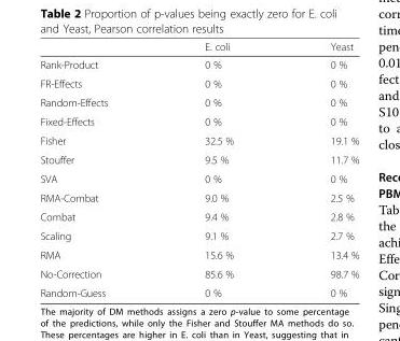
<table><thead><tr><td></td><td>E. coli</td><td>Yeast</td></tr></thead><tbody><tr><td>Rank-Product</td><td>0 %</td><td>0 %</td></tr><tr><td>FR-Effects</td><td>0 %</td><td>0 %</td></tr><tr><td>Random-Effects</td><td>0 %</td><td>0 %</td></tr><tr><td>Fixed-Effects</td><td>0 %</td><td>0 %</td></tr><tr><td>Fisher</td><td>32.5 %</td><td>19.1 %</td></tr><tr><td>Stouffer</td><td>9.5 %</td><td>11.7 %</td></tr><tr><td>SVA</td><td>0 %</td><td>0 %</td></tr><tr><td>RMA-Combat</td><td>9.0 %</td><td>2.5 %</td></tr><tr><td>Combat</td><td>9.4 %</td><td>2.8 %</td></tr><tr><td>Scaling</td><td>9.1 %</td><td>2.7 %</td></tr><tr><td>RMA</td><td>15.6 %</td><td>13.4 %</td></tr><tr><td>No-Correction</td><td>85.6 %</td><td>98.7 %</td></tr><tr><td>Random-Guess</td><td>0 %</td><td>0 %</td></tr></tbody></table>